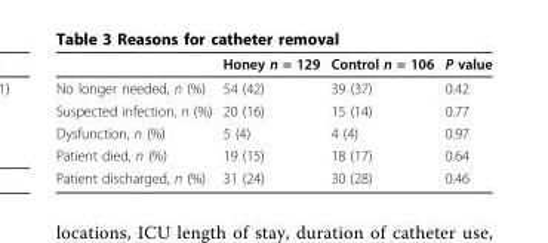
<table><thead><tr><td></td><td>Honey n = 129</td><td>Control n = 106</td><td>P value</td></tr></thead><tbody><tr><td>No longer needed, n (%)</td><td>54 (42)</td><td>39 (37)</td><td>0.42</td></tr><tr><td>Suspected infection, n (%)</td><td>20 (16)</td><td>15 (14)</td><td>0.77</td></tr><tr><td>Dysfunction, n (%)</td><td>5 (4)</td><td>4 (4)</td><td>0.97</td></tr><tr><td>Patient died, n (%)</td><td>19 (15)</td><td>18 (17)</td><td>0.64</td></tr><tr><td>Patient discharged, n (%)</td><td>31 (24)</td><td>30 (28)</td><td>0.46</td></tr></tbody></table>